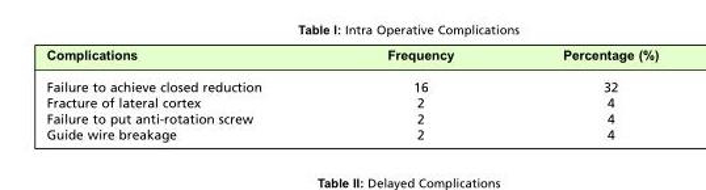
<table><thead><tr><td>Complications</td><td>Frequency</td><td>Percentage (%)</td></tr></thead><tbody><tr><td>Failure to achieve closed reduction</td><td>16</td><td>32</td></tr><tr><td>Fracture of lateral cortex</td><td>2</td><td>4</td></tr><tr><td>Failure to put anti-rotation screw</td><td>2</td><td>4</td></tr><tr><td>Guide wire breakage</td><td>2</td><td>4</td></tr></tbody></table>